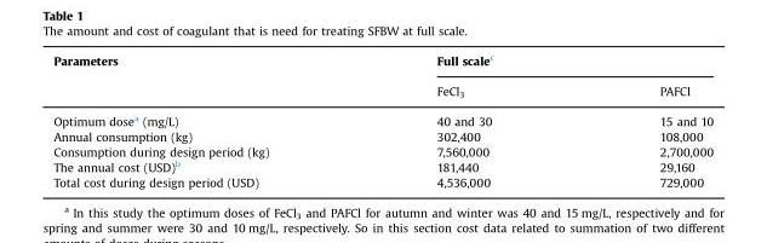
<table><thead><tr><td rowspan="2">Parameters</td><td colspan="2">Full scale<sup>c</sup></td></tr><tr><td>FeCl<sub>3</sub></td><td>PAFCl</td></tr></thead><tbody><tr><td>Optimum dose<sup>a</sup> (mg/L)</td><td>40 and 30</td><td>15 and 10</td></tr><tr><td>Annual consumption (kg)</td><td>302,400</td><td>108,000</td></tr><tr><td>Consumption during design period (kg)</td><td>7,560,000</td><td>2,700,000</td></tr><tr><td>The annual cost (USD)<sup>b</sup></td><td>181,440</td><td>29,160</td></tr><tr><td>Total cost during design period (USD)</td><td>4,536,000</td><td>729,000</td></tr></tbody></table>